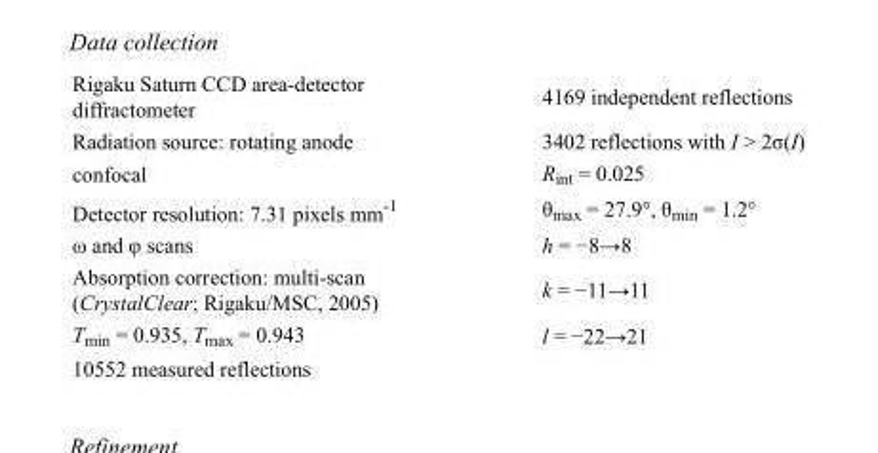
<table><tbody><tr><td>Rigaku Saturn CCD area-detector diffractometer</td><td>4169 independent reflections</td></tr><tr><td>Radiation source: rotating anode</td><td>3402 reflections with I &gt; 2σ(I)</td></tr><tr><td>confocal</td><td>R<sub>int</sub> = 0.025</td></tr><tr><td>Detector resolution: 7.31 pixels mm<sup>-1</sup></td><td>θ<sub>max</sub> = 27.9°, θ<sub>min</sub> = 1.2°</td></tr><tr><td>ω and φ scans</td><td>h = −8→8</td></tr><tr><td>Absorption correction: multi-scan (CrystalClear; Rigaku/MSC, 2005)</td><td>k = −11→11</td></tr><tr><td>T<sub>min</sub> = 0.935, T<sub>max</sub> = 0.943</td><td>l = −22→21</td></tr><tr><td>10552 measured reflections</td><td></td></tr></tbody></table>